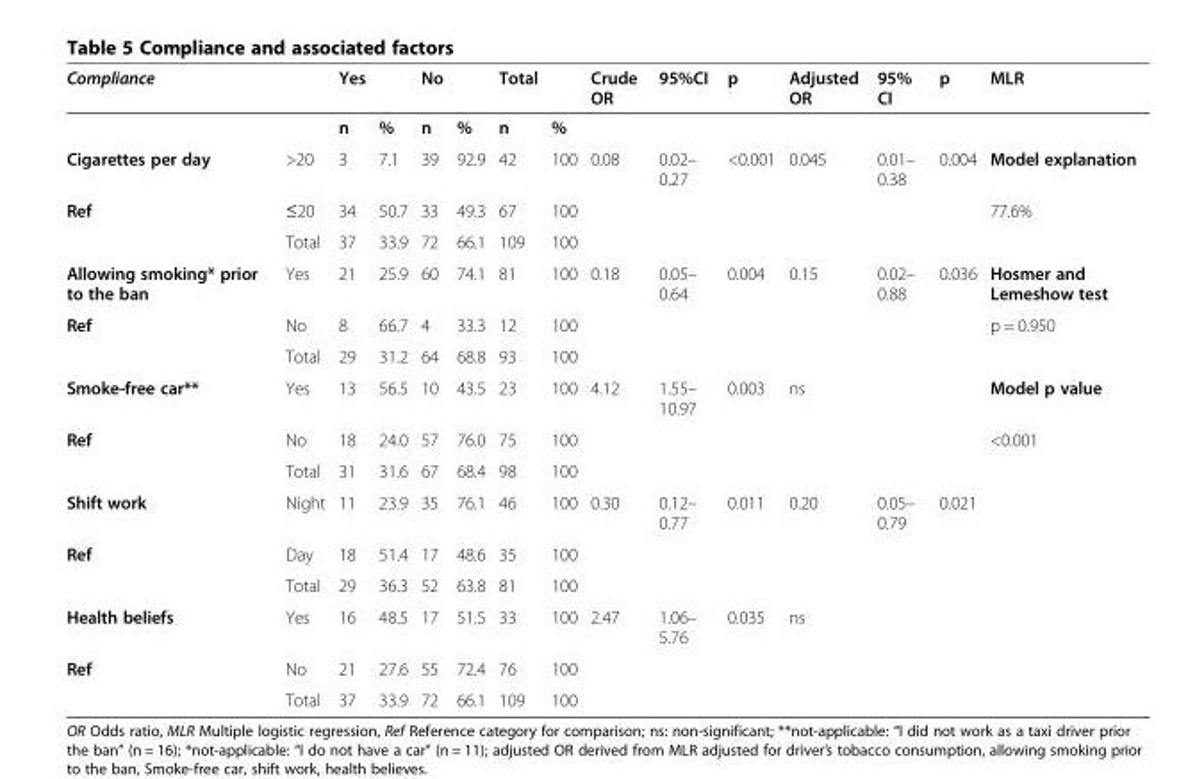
<table><thead><tr><td>Compliance</td><td></td><td>Yes</td><td></td><td>No</td><td></td><td>Total</td><td></td><td>Crude OR</td><td>95%CI</td><td>p</td><td>Adjusted OR</td><td>95% CI</td><td>p</td><td>MLR</td></tr></thead><tbody><tr><td></td><td></td><td>n</td><td>%</td><td>n</td><td>%</td><td>n</td><td>%</td><td></td><td></td><td></td><td></td><td></td><td></td><td></td></tr><tr><td>Cigarettes per day</td><td>&gt;20</td><td>3</td><td>7.1</td><td>39</td><td>92.9</td><td>42</td><td>100</td><td>0.08</td><td>0.02– 0.27</td><td>&lt;0.001</td><td>0.045</td><td>0.01– 0.38</td><td>0.004</td><td>Model explanation</td></tr><tr><td rowspan="2">Ref</td><td>≤20</td><td>34</td><td>50.7</td><td>33</td><td>49.3</td><td>67</td><td>100</td><td></td><td></td><td></td><td></td><td></td><td></td><td>77.6%</td></tr><tr><td>Total</td><td>37</td><td>33.9</td><td>72</td><td>66.1</td><td>109</td><td>100</td><td></td><td></td><td></td><td></td><td></td><td></td><td></td></tr><tr><td>Allowing smoking* prior to the ban</td><td>Yes</td><td>21</td><td>25.9</td><td>60</td><td>74.1</td><td>81</td><td>100</td><td>0.18</td><td>0.05– 0.64</td><td>0.004</td><td>0.15</td><td>0.02– 0.88</td><td>0.036</td><td>Hosmer and Lemeshow test</td></tr><tr><td rowspan="2">Ref</td><td>No</td><td>8</td><td>66.7</td><td>4</td><td>33.3</td><td>12</td><td>100</td><td></td><td></td><td></td><td></td><td></td><td></td><td>p = 0.950</td></tr><tr><td>Total</td><td>29</td><td>31.2</td><td>64</td><td>68.8</td><td>93</td><td>100</td><td></td><td></td><td></td><td></td><td></td><td></td><td></td></tr><tr><td>Smoke-free car**</td><td>Yes</td><td>13</td><td>56.5</td><td>10</td><td>43.5</td><td>23</td><td>100</td><td>4.12</td><td>1.55– 10.97</td><td>0.003</td><td>ns</td><td></td><td></td><td>Model p value</td></tr><tr><td rowspan="2">Ref</td><td>No</td><td>18</td><td>24.0</td><td>57</td><td>76.0</td><td>75</td><td>100</td><td></td><td></td><td></td><td></td><td></td><td></td><td>&lt;0.001</td></tr><tr><td>Total</td><td>31</td><td>31.6</td><td>67</td><td>68.4</td><td>98</td><td>100</td><td></td><td></td><td></td><td></td><td></td><td></td><td></td></tr><tr><td>Shift work</td><td>Night</td><td>11</td><td>23.9</td><td>35</td><td>76.1</td><td>46</td><td>100</td><td>0.30</td><td>0.12– 0.77</td><td>0.011</td><td>0.20</td><td>0.05– 0.79</td><td>0.021</td><td></td></tr><tr><td rowspan="2">Ref</td><td>Day</td><td>18</td><td>51.4</td><td>17</td><td>48.6</td><td>35</td><td>100</td><td></td><td></td><td></td><td></td><td></td><td></td><td></td></tr><tr><td>Total</td><td>29</td><td>36.3</td><td>52</td><td>63.8</td><td>81</td><td>100</td><td></td><td></td><td></td><td></td><td></td><td></td><td></td></tr><tr><td>Health beliefs</td><td>Yes</td><td>16</td><td>48.5</td><td>17</td><td>51.5</td><td>33</td><td>100</td><td>2.47</td><td>1.06– 5.76</td><td>0.035</td><td>ns</td><td></td><td></td><td></td></tr><tr><td rowspan="2">Ref</td><td>No</td><td>21</td><td>27.6</td><td>55</td><td>72.4</td><td>76</td><td>100</td><td></td><td></td><td></td><td></td><td></td><td></td><td></td></tr><tr><td>Total</td><td>37</td><td>33.9</td><td>72</td><td>66.1</td><td>109</td><td>100</td><td></td><td></td><td></td><td></td><td></td><td></td><td></td></tr></tbody></table>